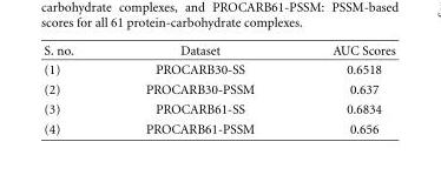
<table><thead><tr><td>S. no.</td><td>Dataset</td><td>AUC Scores</td></tr></thead><tbody><tr><td>(1)</td><td>PROCARB30-SS</td><td>0.6518</td></tr><tr><td>(2)</td><td>PROCARB30-PSSM</td><td>0.637</td></tr><tr><td>(3)</td><td>PROCARB61-SS</td><td>0.6834</td></tr><tr><td>(4)</td><td>PROCARB61-PSSM</td><td>0.656</td></tr></tbody></table>